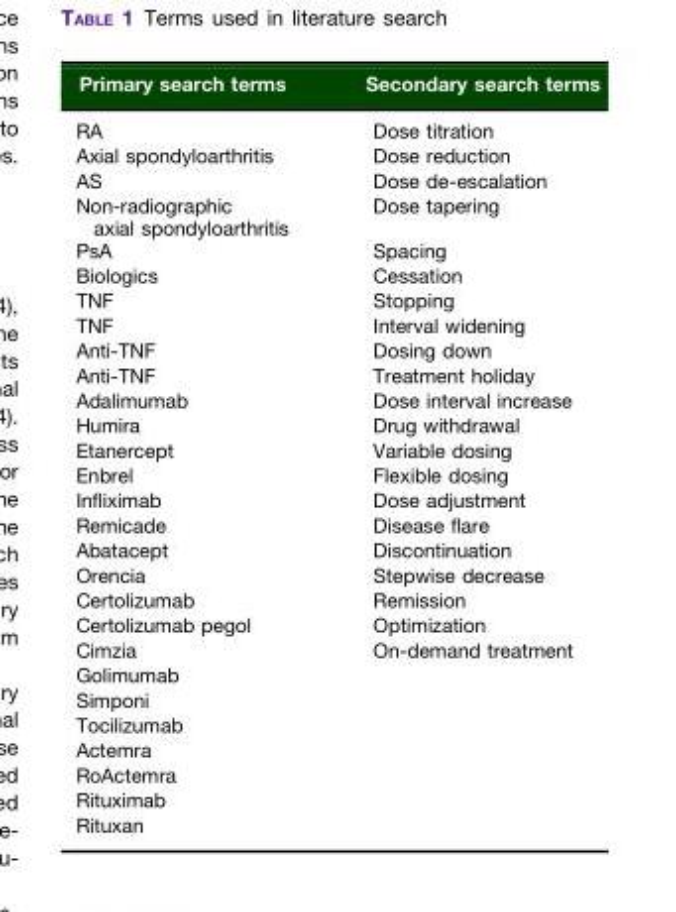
<table><thead><tr><td>Primary search terms</td><td>Secondary search terms</td></tr></thead><tbody><tr><td>RA</td><td>Dose titration</td></tr><tr><td>Axial spondyloarthritis</td><td>Dose reduction</td></tr><tr><td>AS</td><td>Dose de-escalation</td></tr><tr><td>Non-radiographic axial spondyloarthritis</td><td>Dose tapering</td></tr><tr><td>PsA</td><td>Spacing</td></tr><tr><td>Biologics</td><td>Cessation</td></tr><tr><td>TNF</td><td>Stopping</td></tr><tr><td>TNF</td><td>Interval widening</td></tr><tr><td>Anti-TNF</td><td>Dosing down</td></tr><tr><td>Anti-TNF</td><td>Treatment holiday</td></tr><tr><td>Adalimumab</td><td>Dose interval increase</td></tr><tr><td>Humira</td><td>Drug withdrawal</td></tr><tr><td>Etanercept</td><td>Variable dosing</td></tr><tr><td>Enbrel</td><td>Flexible dosing</td></tr><tr><td>Infliximab</td><td>Dose adjustment</td></tr><tr><td>Remicade</td><td>Disease flare</td></tr><tr><td>Abatacept</td><td>Discontinuation</td></tr><tr><td>Orencia</td><td>Stepwise decrease</td></tr><tr><td>Certolizumab</td><td>Remission</td></tr><tr><td>Certolizumab pegol</td><td>Optimization</td></tr><tr><td>Cimzia</td><td>On-demand treatment</td></tr><tr><td colspan="2">Golimumab</td></tr><tr><td colspan="2">Simponi</td></tr><tr><td colspan="2">Tocilizumab</td></tr><tr><td colspan="2">Actemra</td></tr><tr><td colspan="2">RoActemra</td></tr><tr><td colspan="2">Rituximab</td></tr><tr><td>Rituxan</td><td></td></tr></tbody></table>